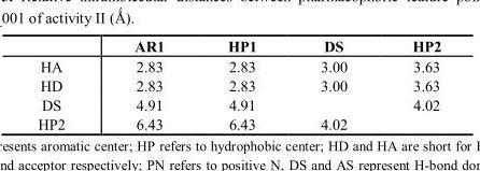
<table><thead><tr><td></td><td>AR1</td><td>HP1</td><td>DS</td><td>HP2</td></tr></thead><tbody><tr><td>HA</td><td>2.83</td><td>2.83</td><td>3.00</td><td>3.63</td></tr><tr><td>HD</td><td>2.83</td><td>2.83</td><td>3.00</td><td>3.63</td></tr><tr><td>DS</td><td>4.91</td><td>4.91</td><td></td><td>4.02</td></tr><tr><td>HP2</td><td>6.43</td><td>6.43</td><td>4.02</td><td></td></tr></tbody></table>